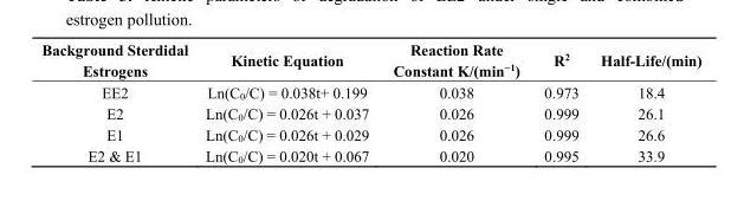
<table><thead><tr><td>Background Sterdidal Estrogens</td><td>Kinetic Equation</td><td>Reaction Rate Constant K/(min<sup>−1</sup>)</td><td>R<sup>2</sup></td><td>Half-Life/(min)</td></tr></thead><tbody><tr><td>EE2</td><td>Ln(C<sub>0</sub>/C) = 0.038t+ 0.199</td><td>0.038</td><td>0.973</td><td>18.4</td></tr><tr><td>E2</td><td>Ln(C<sub>0</sub>/C) = 0.026t + 0.037</td><td>0.026</td><td>0.999</td><td>26.1</td></tr><tr><td>E1</td><td>Ln(C<sub>0</sub>/C) = 0.026t + 0.029</td><td>0.026</td><td>0.999</td><td>26.6</td></tr><tr><td>E2 &amp; E1</td><td>Ln(C<sub>0</sub>/C) = 0.020t + 0.067</td><td>0.020</td><td>0.995</td><td>33.9</td></tr></tbody></table>